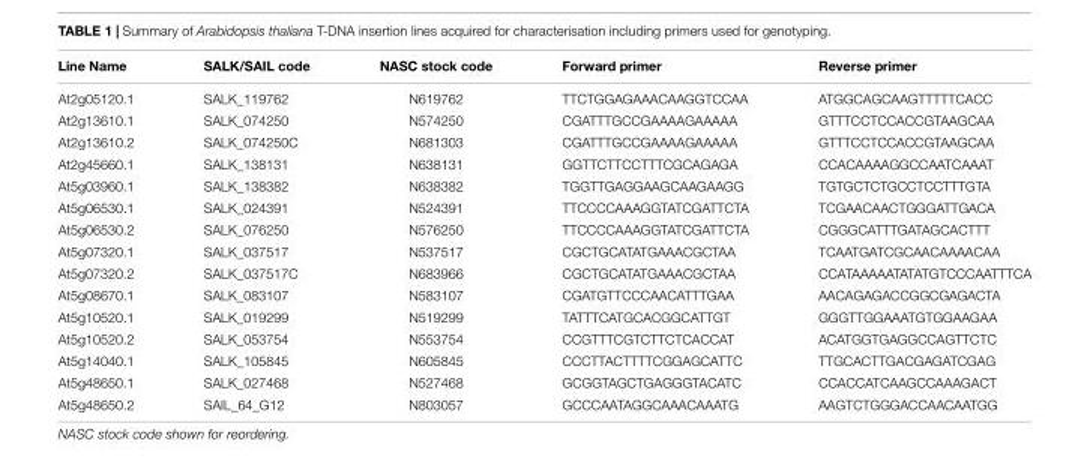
<table><thead><tr><td>Line Name</td><td>SALK/SAIL code</td><td>NASC stock code</td><td>Forward primer</td><td>Reverse primer</td></tr></thead><tbody><tr><td>At2g05120.1</td><td>SALK_119762</td><td>N619762</td><td>TTCTGGAGAAACAAGGTCCAA</td><td>ATGGCAGCAAGTTTTTCACC</td></tr><tr><td>At2g13610.1</td><td>SALK_074250</td><td>N574250</td><td>CGATTTGCCGAAAAGAAAAA</td><td>GTTTCCTCCACCGTAAGCAA</td></tr><tr><td>At2g13610.2</td><td>SALK_074250C</td><td>N681303</td><td>CGATTTGCCGAAAAGAAAAA</td><td>GTTTCCTCCACCGTAAGCAA</td></tr><tr><td>At2g45660.1</td><td>SALK_138131</td><td>N638131</td><td>GGTTCTTCCTTTCGCAGAGA</td><td>CCACAAAAGGCCAATCAAAT</td></tr><tr><td>At5g03960.1</td><td>SALK_138382</td><td>N638382</td><td>TGGTTGAGGAAGCAAGAAGG</td><td>TGTGCTCTGCCTCCTTTGTA</td></tr><tr><td>At5g06530.1</td><td>SALK_024391</td><td>N524391</td><td>TTCCCCAAAGGTATCGATTCTA</td><td>TCGAACAACTGGGATTGACA</td></tr><tr><td>At5g06530.2</td><td>SALK_076250</td><td>N576250</td><td>TTCCCCAAAGGTATCGATTCTA</td><td>CGGGCATTTGATAGCACTTT</td></tr><tr><td>At5g07320.1</td><td>SALK_037517</td><td>N537517</td><td>CGCTGCATATGAAACGCTAA</td><td>TCAATGATCGCAACAAAACAA</td></tr><tr><td>At5g07320.2</td><td>SALK_037517C</td><td>N683966</td><td>CGCTGCATATGAAACGCTAA</td><td>CCATAAAAATATATGTCCCAATTTCA</td></tr><tr><td>At5g08670.1</td><td>SALK_083107</td><td>N583107</td><td>CGATGTTCCCAACATTTGAA</td><td>AACAGAGACCGGCGAGACTA</td></tr><tr><td>At5g10520.1</td><td>SALK_019299</td><td>N519299</td><td>TATTTCATGCACGGCATTGT</td><td>GGGTTGGAAATGTGGAAGAA</td></tr><tr><td>At5g10520.2</td><td>SALK_053754</td><td>N553754</td><td>CCGTTTCGTCTTCTCACCAT</td><td>ACATGGTGAGGCCAGTTCTC</td></tr><tr><td>At5g14040.1</td><td>SALK_105845</td><td>N605845</td><td>CCCTTACTTTTCGGAGCATTC</td><td>TTGCACTTGACGAGATCGAG</td></tr><tr><td>At5g48650.1</td><td>SALK_027468</td><td>N527468</td><td>GCGGTAGCTGAGGGTACATC</td><td>CCACCATCAAGCCAAAGACT</td></tr><tr><td>At5g48650.2</td><td>SAIL_64_G12</td><td>N803057</td><td>GCCCAATAGGCAAACAAATG</td><td>AAGTCTGGGACCAACAATGG</td></tr></tbody></table>